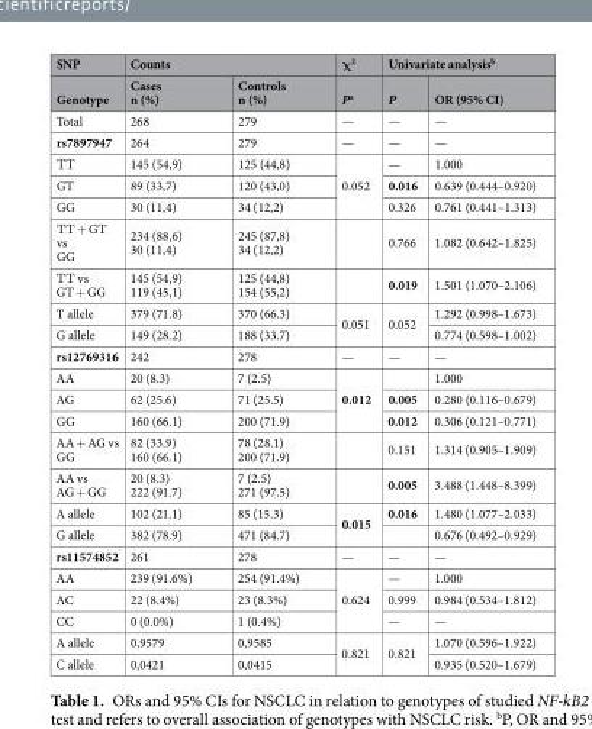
<table><thead><tr><td rowspan="2">SNP Genotype</td><td colspan="2">Counts</td><td rowspan="2">χ<sup>2</sup> P<sup>a</sup></td><td colspan="2">Univariate analysis<sup>b</sup></td></tr><tr><td>Cases n (%)</td><td>Controls n (%)</td><td>P</td><td>OR (95% CI)</td></tr></thead><tbody><tr><td>Total</td><td>268</td><td>279</td><td>—</td><td>—</td><td>—</td></tr><tr><td>rs7897947</td><td>264</td><td>279</td><td>—</td><td>—</td><td>—</td></tr><tr><td>ΤΤ</td><td>145 (54,9)</td><td>125 (44,8)</td><td rowspan="3">0.052</td><td>—</td><td>1.000</td></tr><tr><td>GT</td><td>89 (33,7)</td><td>120 (43,0)</td><td>0.016</td><td>0.639 (0.444–0.920)</td></tr><tr><td>GG</td><td>30 (11,4)</td><td>34 (12,2)</td><td>0.326</td><td>0.761 (0.441–1.313)</td></tr><tr><td>ΤΤ + GΤ vs GG</td><td>234 (88,6) 30 (11,4)</td><td>245 (87,8) 34 (12,2)</td><td></td><td>0.766</td><td>1.082 (0.642–1.825)</td></tr><tr><td>ΤΤ vs GT + GG</td><td>145 (54,9) 119 (45,1)</td><td>125 (44,8) 154 (55,2)</td><td></td><td>0.019</td><td>1.501 (1.070–2.106)</td></tr><tr><td>T allele</td><td>379 (71.8)</td><td>370 (66.3)</td><td rowspan="2">0.051</td><td rowspan="2">0.052</td><td>1.292 (0.998–1.673)</td></tr><tr><td>G allele</td><td>149 (28.2)</td><td>188 (33.7)</td><td>0.774 (0.598–1.002)</td></tr><tr><td>rs12769316</td><td>242</td><td>278</td><td>—</td><td>—</td><td>—</td></tr><tr><td>AA</td><td>20 (8.3)</td><td>7 (2.5)</td><td rowspan="3">0.012</td><td></td><td>1.000</td></tr><tr><td>AG</td><td>62 (25.6)</td><td>71 (25.5)</td><td>0.005</td><td>0.280 (0.116–0.679)</td></tr><tr><td>GG</td><td>160 (66.1)</td><td>200 (71.9)</td><td>0.012</td><td>0.306 (0.121–0.771)</td></tr><tr><td>AA + AG vs GG</td><td>82 (33.9) 160 (66.1)</td><td>78 (28.1) 200 (71.9)</td><td></td><td>0.151</td><td>1.314 (0.905–1.909)</td></tr><tr><td>AA vs AG + GG</td><td>20 (8.3) 222 (91.7)</td><td>7 (2.5) 271 (97.5)</td><td></td><td>0.005</td><td>3.488 (1.448–8.399)</td></tr><tr><td>A allele</td><td>102 (21.1)</td><td>85 (15.3)</td><td rowspan="2">0.015</td><td>0.016</td><td>1.480 (1.077–2.033)</td></tr><tr><td>G allele</td><td>382 (78.9)</td><td>471 (84.7)</td><td></td><td>0.676 (0.492–0.929)</td></tr><tr><td>rs11574852</td><td>261</td><td>278</td><td>—</td><td>—</td><td>—</td></tr><tr><td>AA</td><td>239 (91.6%)</td><td>254 (91.4%)</td><td rowspan="3">0.624</td><td>—</td><td>1.000</td></tr><tr><td>AC</td><td>22 (8.4%)</td><td>23 (8.3%)</td><td>0.999</td><td>0.984 (0.534–1.812)</td></tr><tr><td>CC</td><td>0 (0.0%)</td><td>1 (0.4%)</td><td>—</td><td>—</td></tr><tr><td>A allele</td><td>0,9579</td><td>0,9585</td><td rowspan="2">0.821</td><td rowspan="2">0.821</td><td>1.070 (0.596–1.922)</td></tr><tr><td>C allele</td><td>0,0421</td><td>0,0415</td><td>0.935 (0.520–1.679)</td></tr></tbody></table>